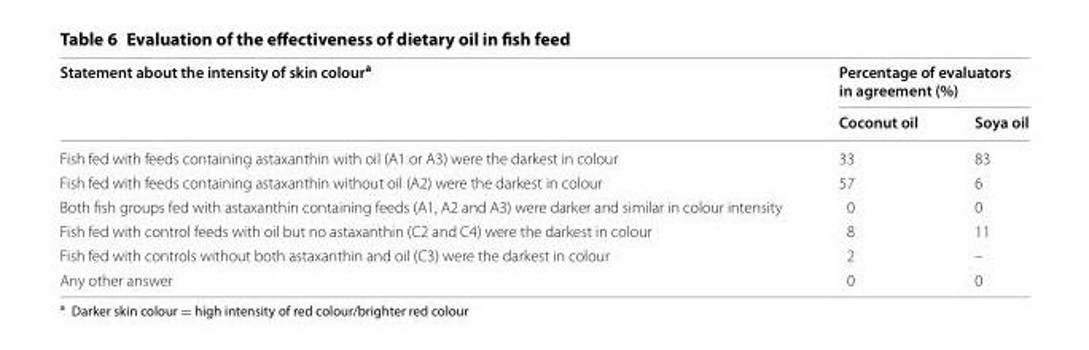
<table><thead><tr><td rowspan="2">Statement about the intensity of skin colour<sup>a</sup></td><td colspan="2">Percentage of evaluators in agreement (%)</td></tr><tr><td>Coconut oil</td><td>Soya oil</td></tr></thead><tbody><tr><td>Fish fed with feeds containing astaxanthin with oil (A1 or A3) were the darkest in colour</td><td>33</td><td>83</td></tr><tr><td>Fish fed with feeds containing astaxanthin without oil (A2) were the darkest in colour</td><td>57</td><td>6</td></tr><tr><td>Both fish groups fed with astaxanthin containing feeds (A1, A2 and A3) were darker and similar in colour intensity</td><td>0</td><td>0</td></tr><tr><td>Fish fed with control feeds with oil but no astaxanthin (C2 and C4) were the darkest in colour</td><td>8</td><td>11</td></tr><tr><td>Fish fed with controls without both astaxanthin and oil (C3) were the darkest in colour</td><td>2</td><td>–</td></tr><tr><td>Any other answer</td><td>0</td><td>0</td></tr></tbody></table>